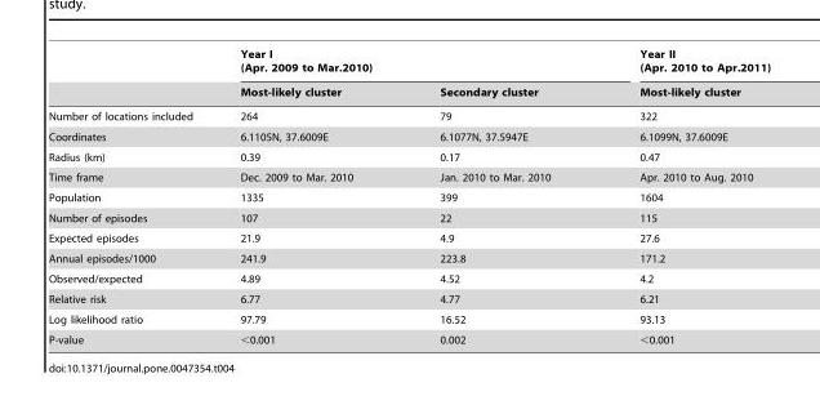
<table><thead><tr><td rowspan="2"></td><td colspan="2">Year I (Apr. 2009 to Mar.2010)</td><td rowspan="2">Year II (Apr. 2010 to Apr.2011) Most-likely cluster</td></tr><tr><td>Most-likely cluster</td><td>Secondary cluster</td></tr></thead><tbody><tr><td>Number of locations included</td><td>264</td><td>79</td><td>322</td></tr><tr><td>Coordinates</td><td>6.1105N, 37.6009E</td><td>6.1077N, 37.5947E</td><td>6.1099N, 37.6009E</td></tr><tr><td>Radius (km)</td><td>0.39</td><td>0.17</td><td>0.47</td></tr><tr><td>Time frame</td><td>Dec. 2009 to Mar. 2010</td><td>Jan. 2010 to Mar. 2010</td><td>Apr. 2010 to Aug. 2010</td></tr><tr><td>Population</td><td>1335</td><td>399</td><td>1604</td></tr><tr><td>Number of episodes</td><td>107</td><td>22</td><td>115</td></tr><tr><td>Expected episodes</td><td>21.9</td><td>4.9</td><td>27.6</td></tr><tr><td>Annual episodes/1000</td><td>241.9</td><td>223.8</td><td>171.2</td></tr><tr><td>Observed/expected</td><td>4.89</td><td>4.52</td><td>4.2</td></tr><tr><td>Relative risk</td><td>6.77</td><td>4.77</td><td>6.21</td></tr><tr><td>Log likelihood ratio</td><td>97.79</td><td>16.52</td><td>93.13</td></tr><tr><td>P-value</td><td>&lt;0.001</td><td>0.002</td><td>&lt;0.001</td></tr></tbody></table>